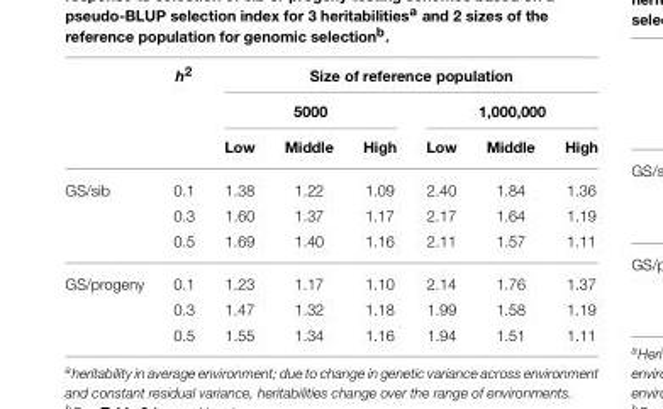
<table><thead><tr><td rowspan="3"></td><td rowspan="3">h<sup>2</sup></td><td colspan="6">Size of reference population</td></tr><tr><td colspan="3">5000</td><td colspan="3">1,000,000</td></tr><tr><td>Low</td><td>Middle</td><td>High</td><td>Low</td><td>Middle</td><td>High</td></tr></thead><tbody><tr><td rowspan="3">GS/sib</td><td>0.1</td><td>1.38</td><td>1.22</td><td>1.09</td><td>2.40</td><td>1.84</td><td>1.36</td></tr><tr><td>0.3</td><td>1.60</td><td>1.37</td><td>1.17</td><td>2.17</td><td>1.64</td><td>1.19</td></tr><tr><td>0.5</td><td>1.69</td><td>1.40</td><td>1.16</td><td>2.11</td><td>1.57</td><td>1.11</td></tr><tr><td rowspan="3">GS/progeny</td><td>0.1</td><td>1.23</td><td>1.17</td><td>1.10</td><td>2.14</td><td>1.76</td><td>1.37</td></tr><tr><td>0.3</td><td>1.47</td><td>1.32</td><td>1.18</td><td>1.99</td><td>1.58</td><td>1.19</td></tr><tr><td>0.5</td><td>1.55</td><td>1.34</td><td>1.16</td><td>1.94</td><td>1.51</td><td>1.11</td></tr></tbody></table>